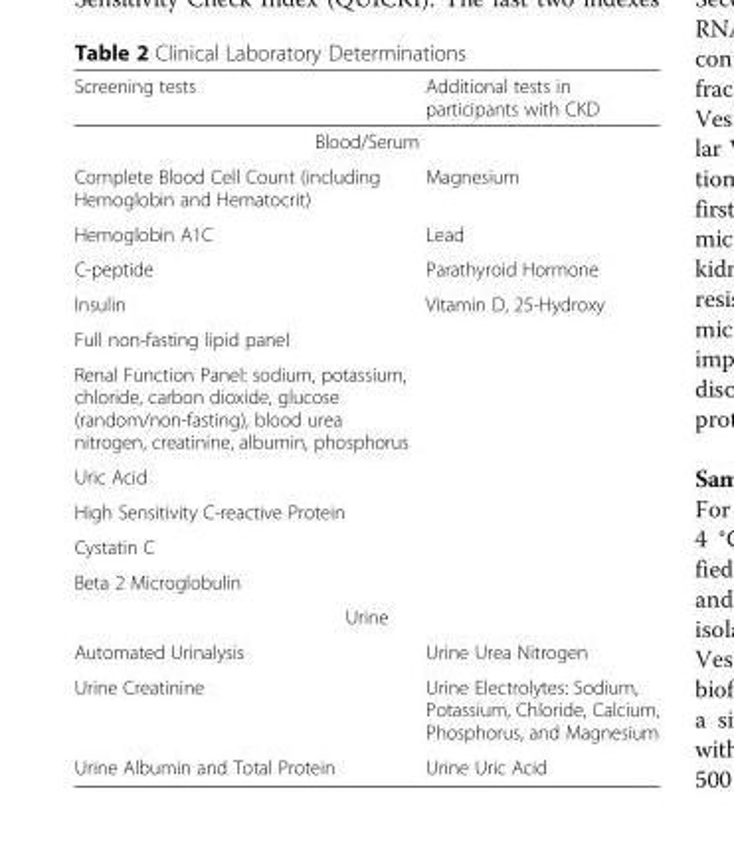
<table><thead><tr><td>Screening tests</td><td>Additional tests in participants with CKD</td></tr></thead><tbody><tr><td colspan="2">Blood/Serum</td></tr><tr><td>Complete Blood Cell Count (including Hemoglobin and Hematocrit)</td><td>Magnesium</td></tr><tr><td>Hemoglobin A1C</td><td>Lead</td></tr><tr><td>C-peptide</td><td>Parathyroid Hormone</td></tr><tr><td>Insulin</td><td>Vitamin D, 25-Hydroxy</td></tr><tr><td colspan="2">Full non-fasting lipid panel</td></tr><tr><td colspan="2">Renal Function Panel: sodium, potassium, chloride, carbon dioxide, glucose (random/non-fasting), blood urea nitrogen, creatinine, albumin, phosphorus</td></tr><tr><td colspan="2">Uric Acid</td></tr><tr><td colspan="2">High Sensitivity C-reactive Protein</td></tr><tr><td colspan="2">Cystatin C</td></tr><tr><td colspan="2">Βeta 2 Microglobulin</td></tr><tr><td colspan="2">Urine</td></tr><tr><td>Automated Urinalysis</td><td>Urine Urea Nitrogen</td></tr><tr><td>Urine Creatinine</td><td>Urine Electrolytes: Sodium, Potassium, Chloride, Calcium, Phosphorus, and Magnesium</td></tr><tr><td>Urine Albumin and Total Protein</td><td>Urine Uric Acid</td></tr></tbody></table>